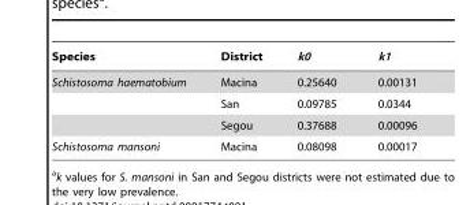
<table><thead><tr><td>Species</td><td>District</td><td>k0</td><td>k1</td></tr></thead><tbody><tr><td rowspan="3">Schistosoma haematobium</td><td>Macina</td><td>0.25640</td><td>0.00131</td></tr><tr><td>San</td><td>0.09785</td><td>0.0344</td></tr><tr><td>Segou</td><td>0.37688</td><td>0.00096</td></tr><tr><td>Schistosoma mansoni</td><td>Macina</td><td>0.08098</td><td>0.00017</td></tr></tbody></table>